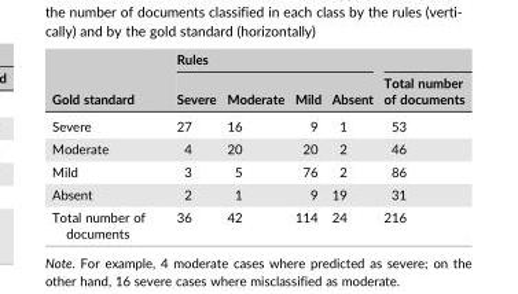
<table><thead><tr><td rowspan="2">Gold standard</td><td colspan="4">Rules</td><td rowspan="2">Total number of documents</td></tr><tr><td>Severe</td><td>Moderate</td><td>Mild</td><td>Absent</td></tr></thead><tbody><tr><td>Severe</td><td>27</td><td>16</td><td>9</td><td>1</td><td>53</td></tr><tr><td>Moderate</td><td>4</td><td>20</td><td>20</td><td>2</td><td>46</td></tr><tr><td>Mild</td><td>3</td><td>5</td><td>76</td><td>2</td><td>86</td></tr><tr><td>Absent</td><td>2</td><td>1</td><td>9</td><td>19</td><td>31</td></tr><tr><td>Total number of documents</td><td>36</td><td>42</td><td>114</td><td>24</td><td>216</td></tr></tbody></table>